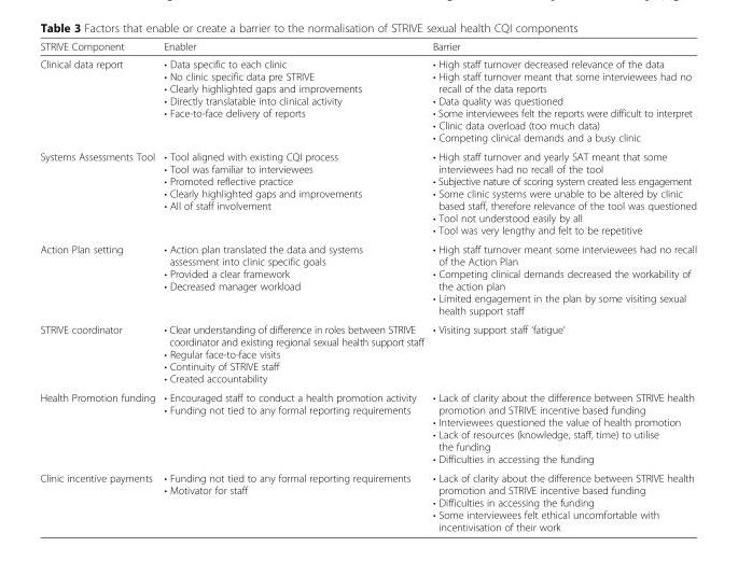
<table><thead><tr><td>STRIVE Component</td><td>Enabler</td><td>Barrier</td></tr></thead><tbody><tr><td>Clinical data report</td><td>• Data specific to each clinic • No clinic specific data pre STRIVE • Clearly highlighted gaps and improvements • Directly translatable into clinical activity • Face-to-face delivery of reports</td><td>• High staff turnover decreased relevance of the data • High staff turnover meant that some interviewees had no recall of the data reports • Data quality was questioned • Some interviewees felt the reports were difficult to interpret • Clinic data overload (too much data) • Competing clinical demands and a busy clinic</td></tr><tr><td>Systems Assessments Tool</td><td>• Tool aligned with existing CQI process • Tool was familiar to interviewees • Promoted reflective practice • Clearly highlighted gaps and improvements • All of staff involvement</td><td>• High staff turnover and yearly SAT meant that some interviewees had no recall of the tool • Subjective nature of scoring system created less engagement • Some clinic systems were unable to be altered by clinic based staff, therefore relevance of the tool was questioned • Tool not understood easily by all • Tool was very lengthy and felt to be repetitive</td></tr><tr><td>Action Plan setting</td><td>• Action plan translated the data and systems assessment into clinic specific goals • Provided a clear framework • Decreased manager workload</td><td>• High staff turnover meant some interviewees had no recall of the Action Plan • Competing clinical demands decreased the workability of the action plan • Limited engagement in the plan by some visiting sexual health support staff</td></tr><tr><td>STRIVE coordinator</td><td>• Clear understanding of difference in roles between STRIVE coordinator and existing regional sexual health support staff • Regular face-to-face visits • Continuity of STRIVE staff • Created accountability</td><td>• Visiting support staff ‘fatigue’</td></tr><tr><td>Health Promotion funding</td><td>• Encouraged staff to conduct a health promotion activity • Funding not tied to any formal reporting requirements</td><td>• Lack of clarity about the difference between STRIVE health promotion and STRIVE incentive based funding • Interviewees questioned the value of health promotion • Lack of resources (knowledge, staff, time) to utilise the funding • Difficulties in accessing the funding</td></tr><tr><td>Clinic incentive payments</td><td>• Funding not tied to any formal reporting requirements • Motivator for staff</td><td>• Lack of clarity about the difference between STRIVE health promotion and STRIVE incentive based funding • Difficulties in accessing the funding • Some interviewees felt ethical uncomfortable with incentivisation of their work</td></tr></tbody></table>